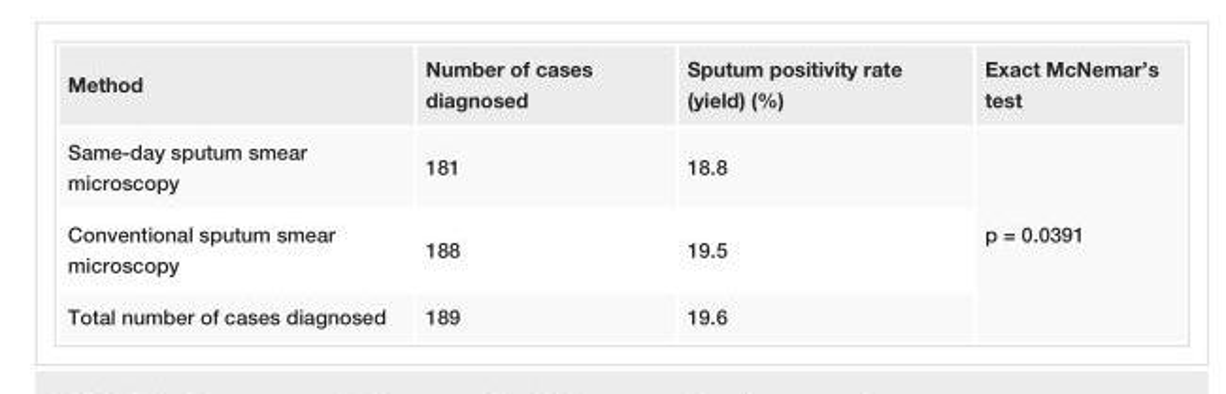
<table><tbody><tr><td>Method</td><td>Number of cases diagnosed</td><td>Sputum positivity rate (yield) (%)</td><td>Exact McNemar’s test</td></tr><tr><td>Same-day sputum smear microscopy</td><td>181</td><td>18.8</td><td rowspan="3">p = 0.0391</td></tr><tr><td>Conventional sputum smear microscopy</td><td>188</td><td>19.5</td></tr><tr><td>Total number of cases diagnosed</td><td>189</td><td>19.6</td></tr></tbody></table>